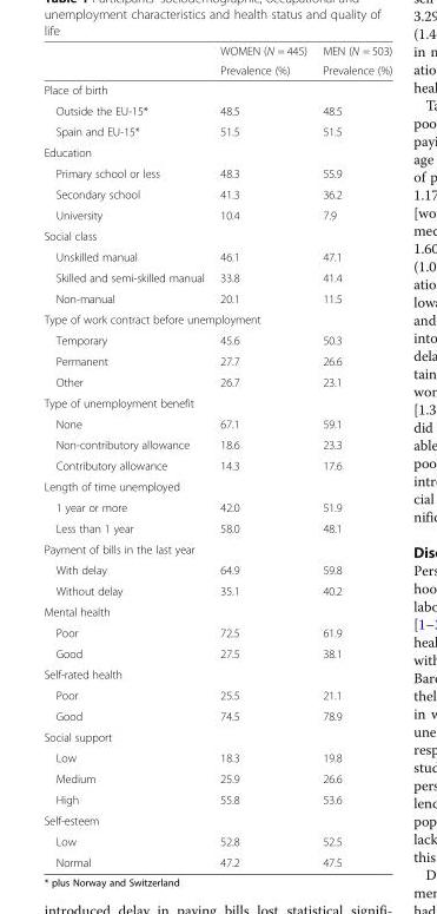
<table><thead><tr><td rowspan="2"></td><td rowspan="2">WOMEN (N = 445) Prevalence (%)</td><td rowspan="2">MEN (N = 503) Prevalence (%)</td></tr><tr></tr></thead><tbody><tr><td colspan="3">Place of birth</td></tr><tr><td>Outside the EU-15*</td><td>48.5</td><td>48.5</td></tr><tr><td>Spain and EU-15*</td><td>51.5</td><td>51.5</td></tr><tr><td colspan="3">Education</td></tr><tr><td>Primary school or less</td><td>48.3</td><td>55.9</td></tr><tr><td>Secondary school</td><td>41.3</td><td>36.2</td></tr><tr><td>University</td><td>10.4</td><td>7.9</td></tr><tr><td colspan="3">Social class</td></tr><tr><td>Unskilled manual</td><td>46.1</td><td>47.1</td></tr><tr><td>Skilled and semi-skilled manual</td><td>33.8</td><td>41.4</td></tr><tr><td>Non-manual</td><td>20.1</td><td>11.5</td></tr><tr><td colspan="3">Type of work contract before unemployment</td></tr><tr><td>Temporary</td><td>45.6</td><td>50.3</td></tr><tr><td>Permanent</td><td>27.7</td><td>26.6</td></tr><tr><td>Other</td><td>26.7</td><td>23.1</td></tr><tr><td colspan="3">Type of unemployment benefit</td></tr><tr><td>None</td><td>67.1</td><td>59.1</td></tr><tr><td>Non-contributory allowance</td><td>18.6</td><td>23.3</td></tr><tr><td>Contributory allowance</td><td>14.3</td><td>17.6</td></tr><tr><td colspan="3">Length of time unemployed</td></tr><tr><td>1 year or more</td><td>42.0</td><td>51.9</td></tr><tr><td>Less than 1 year</td><td>58.0</td><td>48.1</td></tr><tr><td colspan="3">Payment of bills in the last year</td></tr><tr><td>With delay</td><td>64.9</td><td>59.8</td></tr><tr><td>Without delay</td><td>35.1</td><td>40.2</td></tr><tr><td colspan="3">Mental health</td></tr><tr><td>Poor</td><td>72.5</td><td>61.9</td></tr><tr><td>Good</td><td>27.5</td><td>38.1</td></tr><tr><td colspan="3">Self-rated health</td></tr><tr><td>Poor</td><td>25.5</td><td>21.1</td></tr><tr><td>Good</td><td>74.5</td><td>78.9</td></tr><tr><td colspan="3">Social support</td></tr><tr><td>Low</td><td>18.3</td><td>19.8</td></tr><tr><td>Medium</td><td>25.9</td><td>26.6</td></tr><tr><td>High</td><td>55.8</td><td>53.6</td></tr><tr><td colspan="3">Self-esteem</td></tr><tr><td>Low</td><td>52.8</td><td>52.5</td></tr><tr><td>Normal</td><td>47.2</td><td>47.5</td></tr></tbody></table>